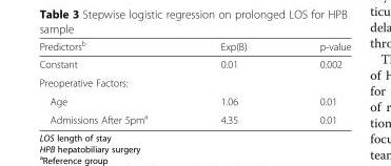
<table><thead><tr><td>Predictors<sup>b</sup></td><td>Exp(B)</td><td>p-value</td></tr></thead><tbody><tr><td>Constant</td><td>0.01</td><td>0.002</td></tr><tr><td colspan="3">Preoperative Factors:</td></tr><tr><td>Age</td><td>1.06</td><td>0.01</td></tr><tr><td>Admissions After 5pm<sup>a</sup></td><td>4.35</td><td>0.01</td></tr></tbody></table>